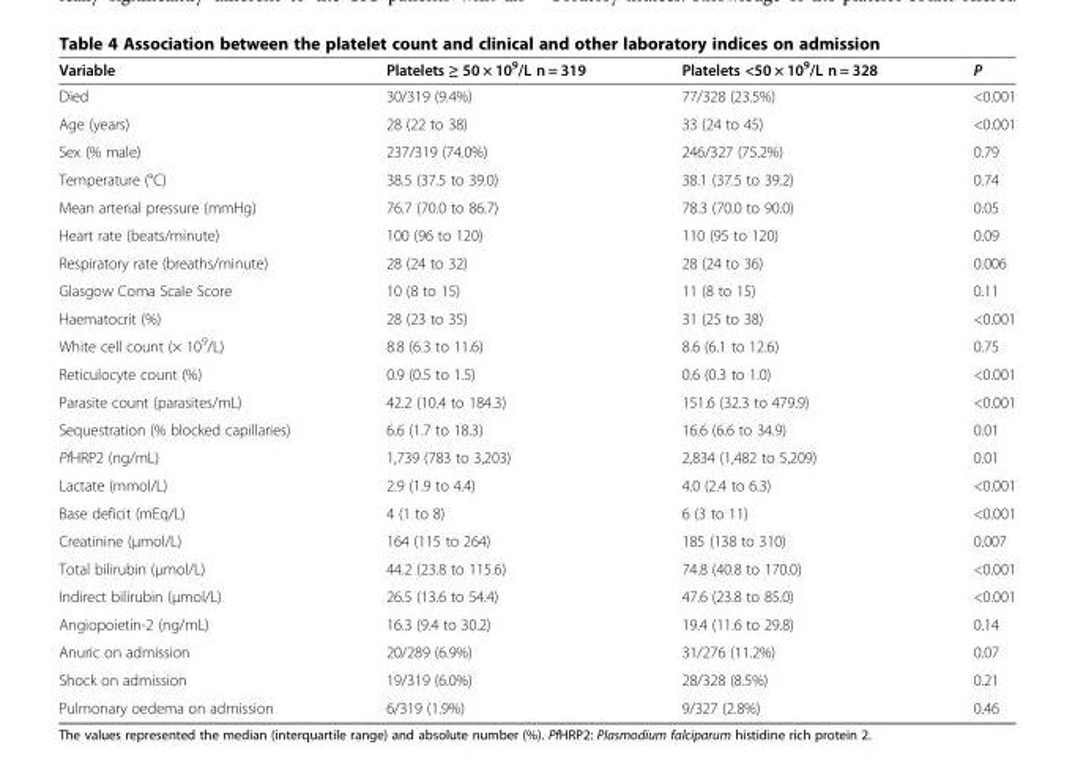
<table><thead><tr><td>Variable</td><td>Platelets ≥ 50 × 10<sup>9</sup>/L n = 319</td><td>Platelets &lt;50 × 10<sup>9</sup>/L n = 328</td><td>P</td></tr></thead><tbody><tr><td>Died</td><td>30/319 (9.4%)</td><td>77/328 (23.5%)</td><td>&lt;0.001</td></tr><tr><td>Age (years)</td><td>28 (22 to 38)</td><td>33 (24 to 45)</td><td>&lt;0.001</td></tr><tr><td>Sex (% male)</td><td>237/319 (74.0%)</td><td>246/327 (75.2%)</td><td>0.79</td></tr><tr><td>Temperature (°C)</td><td>38.5 (37.5 to 39.0)</td><td>38.1 (37.5 to 39.2)</td><td>0.74</td></tr><tr><td>Mean arterial pressure (mmHg)</td><td>76.7 (70.0 to 86.7)</td><td>78.3 (70.0 to 90.0)</td><td>0.05</td></tr><tr><td>Heart rate (beats/minute)</td><td>100 (96 to 120)</td><td>110 (95 to 120)</td><td>0.09</td></tr><tr><td>Respiratory rate (breaths/minute)</td><td>28 (24 to 32)</td><td>28 (24 to 36)</td><td>0.006</td></tr><tr><td>Glasgow Coma Scale Score</td><td>10 (8 to 15)</td><td>11 (8 to 15)</td><td>0.11</td></tr><tr><td>Haematocrit (%)</td><td>28 (23 to 35)</td><td>31 (25 to 38)</td><td>&lt;0.001</td></tr><tr><td>White cell count (× 10<sup>9</sup>/L)</td><td>8.8 (6.3 to 11.6)</td><td>8.6 (6.1 to 12.6)</td><td>0.75</td></tr><tr><td>Reticulocyte count (%)</td><td>0.9 (0.5 to 1.5)</td><td>0.6 (0.3 to 1.0)</td><td>&lt;0.001</td></tr><tr><td>Parasite count (parasites/mL)</td><td>42.2 (10.4 to 184.3)</td><td>151.6 (32.3 to 479.9)</td><td>&lt;0.001</td></tr><tr><td>Sequestration (% blocked capillaries)</td><td>6.6 (1.7 to 18.3)</td><td>16.6 (6.6 to 34.9)</td><td>0.01</td></tr><tr><td>PfHRP2 (ng/mL)</td><td>1,739 (783 to 3,203)</td><td>2,834 (1,482 to 5,209)</td><td>0.01</td></tr><tr><td>Lactate (mmol/L)</td><td>2.9 (1.9 to 4.4)</td><td>4.0 (2.4 to 6.3)</td><td>&lt;0.001</td></tr><tr><td>Base deficit (mEq/L)</td><td>4 (1 to 8)</td><td>6 (3 to 11)</td><td>&lt;0.001</td></tr><tr><td>Creatinine (μmol/L)</td><td>164 (115 to 264)</td><td>185 (138 to 310)</td><td>0.007</td></tr><tr><td>Total bilirubin (μmol/L)</td><td>44.2 (23.8 to 115.6)</td><td>74.8 (40.8 to 170.0)</td><td>&lt;0.001</td></tr><tr><td>Indirect bilirubin (μmol/L)</td><td>26.5 (13.6 to 54.4)</td><td>47.6 (23.8 to 85.0)</td><td>&lt;0.001</td></tr><tr><td>Angiopoietin-2 (ng/mL)</td><td>16.3 (9.4 to 30.2)</td><td>19.4 (11.6 to 29.8)</td><td>0.14</td></tr><tr><td>Anuric on admission</td><td>20/289 (6.9%)</td><td>31/276 (11.2%)</td><td>0.07</td></tr><tr><td>Shock on admission</td><td>19/319 (6.0%)</td><td>28/328 (8.5%)</td><td>0.21</td></tr><tr><td>Pulmonary oedema on admission</td><td>6/319 (1.9%)</td><td>9/327 (2.8%)</td><td>0.46</td></tr></tbody></table>